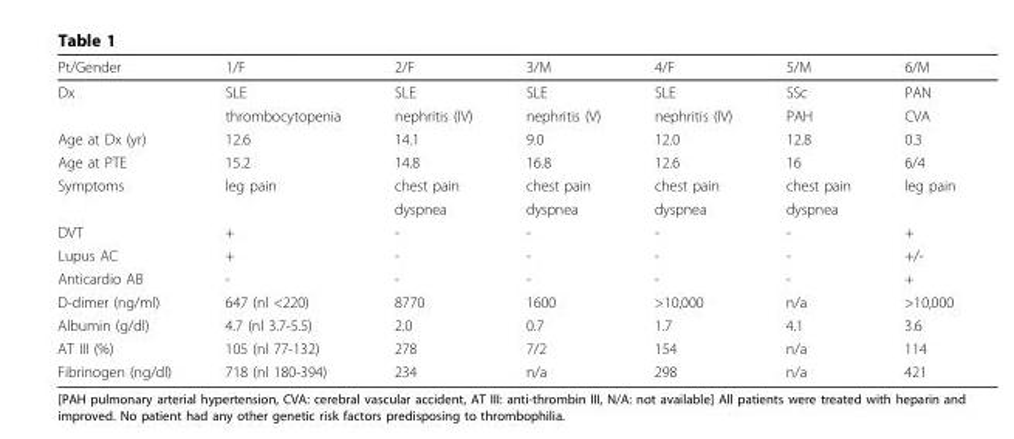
<table><thead><tr><td>Pt/Gender</td><td>1/F</td><td>2/F</td><td>3/M</td><td>4/F</td><td>5/M</td><td>6/M</td></tr></thead><tbody><tr><td rowspan="2">Dx</td><td>SLE</td><td>SLE</td><td>SLE</td><td>SLE</td><td>SSc</td><td>PAN</td></tr><tr><td>thrombocytopenia</td><td>nephritis (IV)</td><td>nephritis (V)</td><td>nephritis (IV)</td><td>PAH</td><td>CVA</td></tr><tr><td>Age at Dx (yr)</td><td>12.6</td><td>14.1</td><td>9.0</td><td>12.0</td><td>12.8</td><td>0.3</td></tr><tr><td>Age at PTE</td><td>15.2</td><td>14.8</td><td>16.8</td><td>12.6</td><td>16</td><td>6/4</td></tr><tr><td rowspan="2">Symptoms</td><td>leg pain</td><td>chest pain</td><td>chest pain</td><td>chest pain</td><td>chest pain</td><td>leg pain</td></tr><tr><td></td><td>dyspnea</td><td>dyspnea</td><td>dyspnea</td><td>dyspnea</td><td></td></tr><tr><td>DVT</td><td>+</td><td>-</td><td>-</td><td>-</td><td>-</td><td>+</td></tr><tr><td>Lupus AC</td><td>+</td><td>-</td><td>-</td><td>-</td><td>-</td><td>+/-</td></tr><tr><td>Anticardio AB</td><td>-</td><td>-</td><td>-</td><td>-</td><td>-</td><td>+</td></tr><tr><td>D-dimer (ng/ml)</td><td>647 (nl &lt;220)</td><td>8770</td><td>1600</td><td>&gt;10,000</td><td>n/a</td><td>&gt;10,000</td></tr><tr><td>Albumin (g/dl)</td><td>4.7 (nl 3.7-5.5)</td><td>2.0</td><td>0.7</td><td>1.7</td><td>4.1</td><td>3.6</td></tr><tr><td>AT III (%)</td><td>105 (nl 77-132)</td><td>278</td><td>7/2</td><td>154</td><td>n/a</td><td>114</td></tr><tr><td>Fibrinogen (ng/dl)</td><td>718 (nl 180-394)</td><td>234</td><td>n/a</td><td>298</td><td>n/a</td><td>421</td></tr></tbody></table>